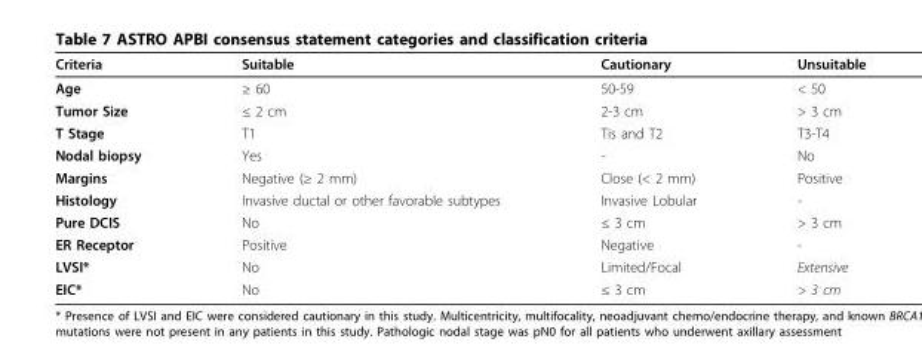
<table><thead><tr><td>Criteria</td><td>Suitable</td><td>Cautionary</td><td>Unsuitable</td></tr></thead><tbody><tr><td>Age</td><td>≥ 60</td><td>50-59</td><td>&lt; 50</td></tr><tr><td>Tumor Size</td><td>≤ 2 cm</td><td>2-3 cm</td><td>&gt; 3 cm</td></tr><tr><td>T Stage</td><td>T1</td><td>Tis and T2</td><td>T3-T4</td></tr><tr><td>Nodal biopsy</td><td>Yes</td><td>-</td><td>No</td></tr><tr><td>Margins</td><td>Negative (≥ 2 mm)</td><td>Close (&lt; 2 mm)</td><td>Positive</td></tr><tr><td>Histology</td><td>Invasive ductal or other favorable subtypes</td><td>Invasive Lobular</td><td>-</td></tr><tr><td>Pure DCIS</td><td>No</td><td>≤ 3 cm</td><td>&gt; 3 cm</td></tr><tr><td>ER Receptor</td><td>Positive</td><td>Negative</td><td>-</td></tr><tr><td>LVSI*</td><td>No</td><td>Limited/Focal</td><td>Extensive</td></tr><tr><td>EIC*</td><td>No</td><td>≤ 3 cm</td><td>&gt; 3 cm</td></tr></tbody></table>